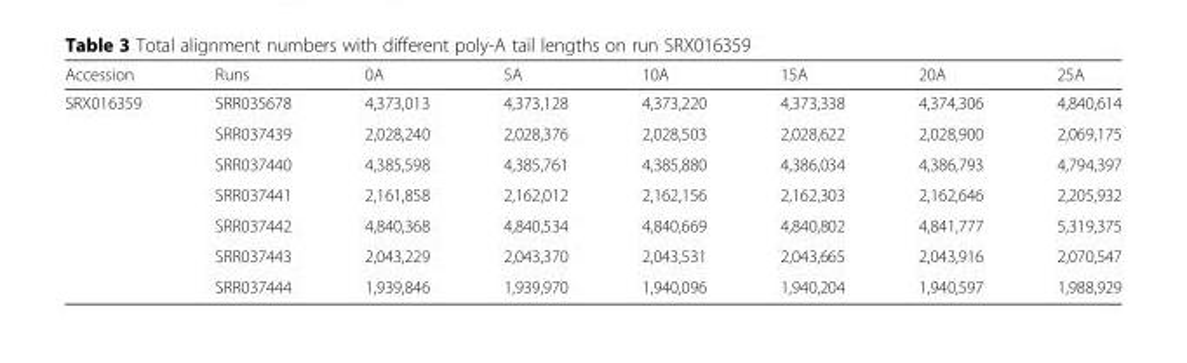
<table><thead><tr><td>Accession</td><td>Runs</td><td>0A</td><td>5A</td><td>10A</td><td>15A</td><td>20A</td><td>25A</td></tr></thead><tbody><tr><td rowspan="7">SRX016359</td><td>SRR035678</td><td>4,373,013</td><td>4,373,128</td><td>4,373,220</td><td>4,373,338</td><td>4,374,306</td><td>4,840,614</td></tr><tr><td>SRR037439</td><td>2,028,240</td><td>2,028,376</td><td>2,028,503</td><td>2,028,622</td><td>2,028,900</td><td>2,069,175</td></tr><tr><td>SRR037440</td><td>4,385,598</td><td>4,385,761</td><td>4,385,880</td><td>4,386,034</td><td>4,386,793</td><td>4,794,397</td></tr><tr><td>SRR037441</td><td>2,161,858</td><td>2,162,012</td><td>2,162,156</td><td>2,162,303</td><td>2,162,646</td><td>2,205,932</td></tr><tr><td>SRR037442</td><td>4,840,368</td><td>4,840,534</td><td>4,840,669</td><td>4,840,802</td><td>4,841,777</td><td>5,319,375</td></tr><tr><td>SRR037443</td><td>2,043,229</td><td>2,043,370</td><td>2,043,531</td><td>2,043,665</td><td>2,043,916</td><td>2,070,547</td></tr><tr><td>SRR037444</td><td>1,939,846</td><td>1,939,970</td><td>1,940,096</td><td>1,940,204</td><td>1,940,597</td><td>1,988,929</td></tr></tbody></table>